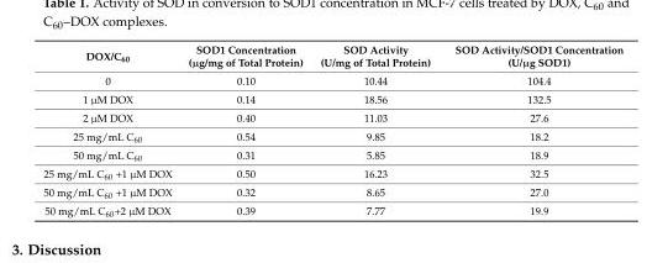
<table><thead><tr><td>DOX/C<sub>60</sub></td><td>SOD1 Concentration (µg/mg of Total Protein)</td><td>SOD Activity (U/mg of Total Protein)</td><td>SOD Activity/SOD1 Concentration (U/µg SOD1)</td></tr></thead><tbody><tr><td>0</td><td>0.10</td><td>10.44</td><td>104.4</td></tr><tr><td>1 µM DOX</td><td>0.14</td><td>18.56</td><td>132.5</td></tr><tr><td>2 µM DOX</td><td>0.40</td><td>11.03</td><td>27.6</td></tr><tr><td>25 mg/mL C<sub>60</sub></td><td>0.54</td><td>9.85</td><td>18.2</td></tr><tr><td>50 mg/mL C<sub>60</sub></td><td>0.31</td><td>5.85</td><td>18.9</td></tr><tr><td>25 mg/mL C<sub>60</sub> +1 µM DOX</td><td>0.50</td><td>16.23</td><td>32.5</td></tr><tr><td>50 mg/mL C<sub>60</sub> +1 µM DOX</td><td>0.32</td><td>8.65</td><td>27.0</td></tr><tr><td>50 mg/mL C<sub>60</sub>+2 µM DOX</td><td>0.39</td><td>7.77</td><td>19.9</td></tr></tbody></table>